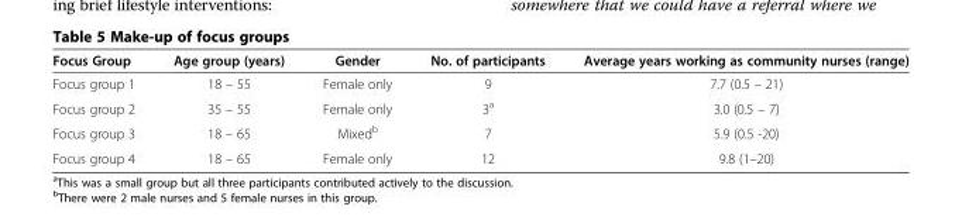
<table><thead><tr><td>Focus Group</td><td>Age group (years)</td><td>Gender</td><td>No. of participants</td><td>Average years working as community nurses (range)</td></tr></thead><tbody><tr><td>Focus group 1</td><td>18 – 55</td><td>Female only</td><td>9</td><td>7.7 (0.5 – 21)</td></tr><tr><td>Focus group 2</td><td>35 – 55</td><td>Female only</td><td>3<sup>a</sup></td><td>3.0 (0.5 – 7)</td></tr><tr><td>Focus group 3</td><td>18 – 65</td><td>Mixed<sup>b</sup></td><td>7</td><td>5.9 (0.5 -20)</td></tr><tr><td>Focus group 4</td><td>18 – 65</td><td>Female only</td><td>12</td><td>9.8 (1–20)</td></tr></tbody></table>